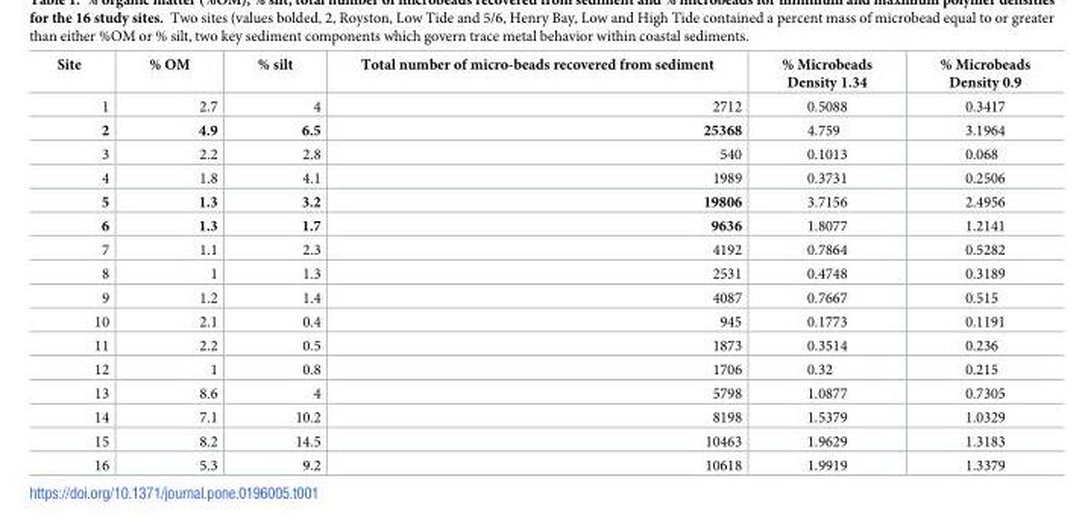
<table><thead><tr><td>Site</td><td>% OM</td><td>% silt</td><td>Total number of micro-beads recovered from sediment</td><td>% Microbeads Density 1.34</td><td>% Microbeads Density 0.9</td></tr></thead><tbody><tr><td>1</td><td>2.7</td><td>4</td><td>2712</td><td>0.5088</td><td>0.3417</td></tr><tr><td>2</td><td>4.9</td><td>6.5</td><td>25368</td><td>4.759</td><td>3.1964</td></tr><tr><td>3</td><td>2.2</td><td>2.8</td><td>540</td><td>0.1013</td><td>0.068</td></tr><tr><td>4</td><td>1.8</td><td>4.1</td><td>1989</td><td>0.3731</td><td>0.2506</td></tr><tr><td>5</td><td>1.3</td><td>3.2</td><td>19806</td><td>3.7156</td><td>2.4956</td></tr><tr><td>6</td><td>1.3</td><td>1.7</td><td>9636</td><td>1.8077</td><td>1.2141</td></tr><tr><td>7</td><td>1.1</td><td>2.3</td><td>4192</td><td>0.7864</td><td>0.5282</td></tr><tr><td>8</td><td>1</td><td>1.3</td><td>2531</td><td>0.4748</td><td>0.3189</td></tr><tr><td>9</td><td>1.2</td><td>1.4</td><td>4087</td><td>0.7667</td><td>0.515</td></tr><tr><td>10</td><td>2.1</td><td>0.4</td><td>945</td><td>0.1773</td><td>0.1191</td></tr><tr><td>11</td><td>2.2</td><td>0.5</td><td>1873</td><td>0.3514</td><td>0.236</td></tr><tr><td>12</td><td>1</td><td>0.8</td><td>1706</td><td>0.32</td><td>0.215</td></tr><tr><td>13</td><td>8.6</td><td>4</td><td>5798</td><td>1.0877</td><td>0.7305</td></tr><tr><td>14</td><td>7.1</td><td>10.2</td><td>8198</td><td>1.5379</td><td>1.0329</td></tr><tr><td>15</td><td>8.2</td><td>14.5</td><td>10463</td><td>1.9629</td><td>1.3183</td></tr><tr><td>16</td><td>5.3</td><td>9.2</td><td>10618</td><td>1.9919</td><td>1.3379</td></tr></tbody></table>